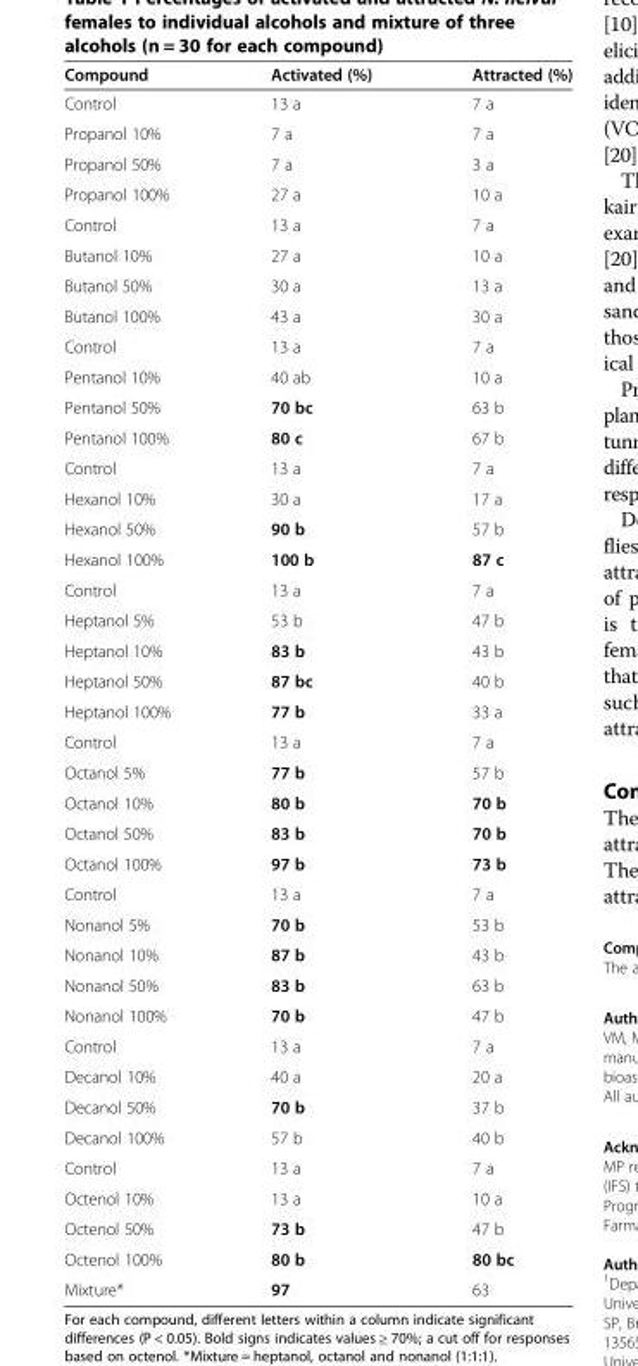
<table><thead><tr><td>Compound</td><td>Activated (%)</td><td>Attracted (%)</td></tr></thead><tbody><tr><td>Control</td><td>13 a</td><td>7 a</td></tr><tr><td>Propanol 10%</td><td>7 a</td><td>7 a</td></tr><tr><td>Propanol 50%</td><td>7 a</td><td>3 a</td></tr><tr><td>Propanol 100%</td><td>27 a</td><td>10 a</td></tr><tr><td>Control</td><td>13 a</td><td>7 a</td></tr><tr><td>Butanol 10%</td><td>27 a</td><td>10 a</td></tr><tr><td>Butanol 50%</td><td>30 a</td><td>13 a</td></tr><tr><td>Butanol 100%</td><td>43 a</td><td>30 a</td></tr><tr><td>Control</td><td>13 a</td><td>7 a</td></tr><tr><td>Pentanol 10%</td><td>40 ab</td><td>10 a</td></tr><tr><td>Pentanol 50%</td><td>70 bc</td><td>63 b</td></tr><tr><td>Pentanol 100%</td><td>80 c</td><td>67 b</td></tr><tr><td>Control</td><td>13 a</td><td>7 a</td></tr><tr><td>Hexanol 10%</td><td>30 a</td><td>17 a</td></tr><tr><td>Hexanol 50%</td><td>90 b</td><td>57 b</td></tr><tr><td>Hexanol 100%</td><td>100 b</td><td>87 c</td></tr><tr><td>Control</td><td>13 a</td><td>7 a</td></tr><tr><td>Heptanol 5%</td><td>53 b</td><td>47 b</td></tr><tr><td>Heptanol 10%</td><td>83 b</td><td>43 b</td></tr><tr><td>Heptanol 50%</td><td>87 bc</td><td>40 b</td></tr><tr><td>Heptanol 100%</td><td>77 b</td><td>33 a</td></tr><tr><td>Control</td><td>13 a</td><td>7 a</td></tr><tr><td>Octanol 5%</td><td>77 b</td><td>57 b</td></tr><tr><td>Octanol 10%</td><td>80 b</td><td>70 b</td></tr><tr><td>Octanol 50%</td><td>83 b</td><td>70 b</td></tr><tr><td>Octanol 100%</td><td>97 b</td><td>73 b</td></tr><tr><td>Control</td><td>13 a</td><td>7 a</td></tr><tr><td>Nonanol 5%</td><td>70 b</td><td>53 b</td></tr><tr><td>Nonanol 10%</td><td>87 b</td><td>43 b</td></tr><tr><td>Nonanol 50%</td><td>83 b</td><td>63 b</td></tr><tr><td>Nonanol 100%</td><td>70 b</td><td>47 b</td></tr><tr><td>Control</td><td>13 a</td><td>7 a</td></tr><tr><td>Decanol 10%</td><td>40 a</td><td>20 a</td></tr><tr><td>Decanol 50%</td><td>70 b</td><td>37 b</td></tr><tr><td>Decanol 100%</td><td>57 b</td><td>40 b</td></tr><tr><td>Control</td><td>13 a</td><td>7 a</td></tr><tr><td>Octenol 10%</td><td>13 a</td><td>10 a</td></tr><tr><td>Octenol 50%</td><td>73 b</td><td>47 b</td></tr><tr><td>Octenol 100%</td><td>80 b</td><td>80 bc</td></tr><tr><td>Mixture*</td><td>97</td><td>63</td></tr></tbody></table>